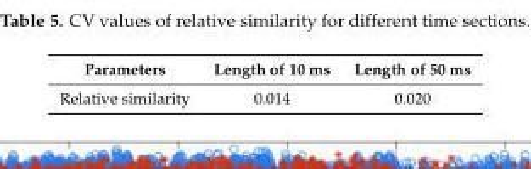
<table><thead><tr><td>Parameters</td><td>Length of 10 ms</td><td>Length of 50 ms</td></tr></thead><tbody><tr><td>Relative similarity</td><td>0.014</td><td>0.020</td></tr></tbody></table>